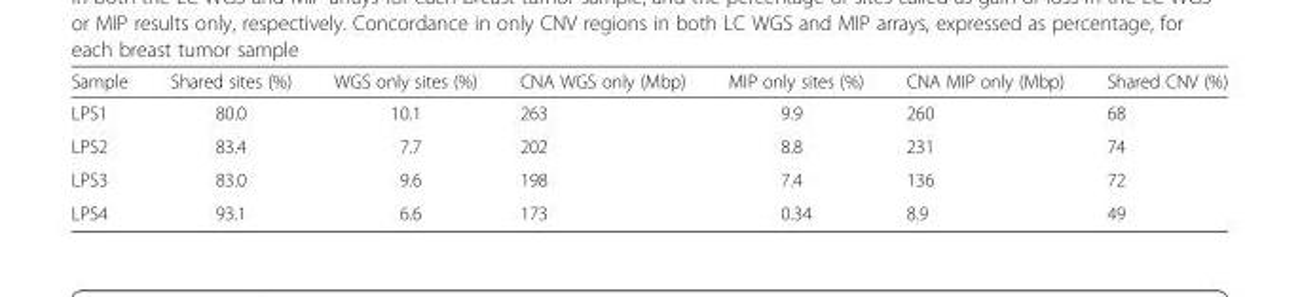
<table><thead><tr><td>Sample</td><td>Shared sites (%)</td><td>WGS only sites (%)</td><td>CNA WGS only (Mbp)</td><td>MIP only sites (%)</td><td>CNA MIP only (Mbp)</td><td>Shared CNV (%)</td></tr></thead><tbody><tr><td>LPS1</td><td>80.0</td><td>10.1</td><td>263</td><td>9.9</td><td>260</td><td>68</td></tr><tr><td>LPS2</td><td>83.4</td><td>7.7</td><td>202</td><td>8.8</td><td>231</td><td>74</td></tr><tr><td>LPS3</td><td>83.0</td><td>9.6</td><td>198</td><td>7.4</td><td>136</td><td>72</td></tr><tr><td>LPS4</td><td>93.1</td><td>6.6</td><td>173</td><td>0.34</td><td>8.9</td><td>49</td></tr></tbody></table>